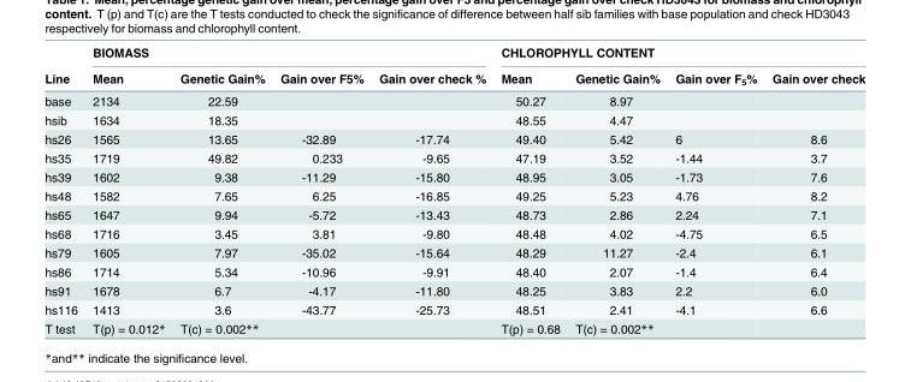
<table><thead><tr><td rowspan="2">Line</td><td colspan="4">BIOMASS</td><td colspan="4">CHLOROPHYLL CONTENT</td></tr><tr><td>Mean</td><td>Genetic Gain%</td><td>Gain over F5%</td><td>Gain over check %</td><td>Mean</td><td>Genetic Gain%</td><td>Gain over F<sub>5</sub>%</td><td>Gain over check</td></tr></thead><tbody><tr><td>base</td><td>2134</td><td>22.59</td><td></td><td></td><td>50.27</td><td>8.97</td><td></td><td></td></tr><tr><td>hsib</td><td>1634</td><td>18.35</td><td></td><td></td><td>48.55</td><td>4.47</td><td></td><td></td></tr><tr><td>hs26</td><td>1565</td><td>13.65</td><td>-32.89</td><td>-17.74</td><td>49.40</td><td>5.42</td><td>6</td><td>8.6</td></tr><tr><td>hs35</td><td>1719</td><td>49.82</td><td>0.233</td><td>-9.65</td><td>47.19</td><td>3.52</td><td>-1.44</td><td>3.7</td></tr><tr><td>hs39</td><td>1602</td><td>9.38</td><td>-11.29</td><td>-15.80</td><td>48.95</td><td>3.05</td><td>-1.73</td><td>7.6</td></tr><tr><td>hs48</td><td>1582</td><td>7.65</td><td>6.25</td><td>-16.85</td><td>49.25</td><td>5.23</td><td>4.76</td><td>8.2</td></tr><tr><td>hs65</td><td>1647</td><td>9.94</td><td>-5.72</td><td>-13.43</td><td>48.73</td><td>2.86</td><td>2.24</td><td>7.1</td></tr><tr><td>hs68</td><td>1716</td><td>3.45</td><td>3.81</td><td>-9.80</td><td>48.48</td><td>4.02</td><td>-4.75</td><td>6.5</td></tr><tr><td>hs79</td><td>1605</td><td>7.97</td><td>-35.02</td><td>-15.64</td><td>48.29</td><td>11.27</td><td>-2.4</td><td>6.1</td></tr><tr><td>hs86</td><td>1714</td><td>5.34</td><td>-10.96</td><td>-9.91</td><td>48.40</td><td>2.07</td><td>-1.4</td><td>6.4</td></tr><tr><td>hs91</td><td>1678</td><td>6.7</td><td>-4.17</td><td>-11.80</td><td>48.25</td><td>3.83</td><td>2.2</td><td>6.0</td></tr><tr><td>hs116</td><td>1413</td><td>3.6</td><td>-43.77</td><td>-25.73</td><td>48.51</td><td>2.41</td><td>-4.1</td><td>6.6</td></tr><tr><td>T test</td><td>T(p) = 0.012*</td><td colspan="2">T(c) = 0.002**</td><td></td><td>T(p) = 0.68</td><td colspan="2">T(c) = 0.002**</td><td></td></tr></tbody></table>